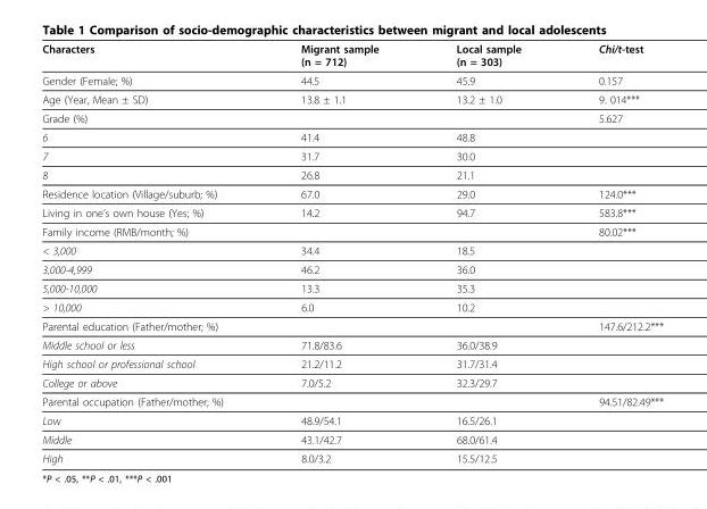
<table><thead><tr><td>Characters</td><td>Migrant sample (n = 712)</td><td>Local sample (n = 303)</td><td>Chi/t-test</td></tr></thead><tbody><tr><td>Gender (Female; %)</td><td>44.5</td><td>45.9</td><td>0.157</td></tr><tr><td>Age (Year, Mean ± SD)</td><td>13.8 ± 1.1</td><td>13.2 ± 1.0</td><td>9. 014***</td></tr><tr><td>Grade (%)</td><td></td><td></td><td>5.627</td></tr><tr><td>6</td><td>41.4</td><td>48.8</td><td></td></tr><tr><td>7</td><td>31.7</td><td>30.0</td><td></td></tr><tr><td>8</td><td>26.8</td><td>21.1</td><td></td></tr><tr><td>Residence location (Village/suburb; %)</td><td>67.0</td><td>29.0</td><td>124.0***</td></tr><tr><td>Living in one’s own house (Yes; %)</td><td>14.2</td><td>94.7</td><td>583.8***</td></tr><tr><td>Family income (RMB/month; %)</td><td></td><td></td><td>80.02***</td></tr><tr><td>&lt; 3,000</td><td>34.4</td><td>18.5</td><td></td></tr><tr><td>3,000-4,999</td><td>46.2</td><td>36.0</td><td></td></tr><tr><td>5,000-10,000</td><td>13.3</td><td>35.3</td><td></td></tr><tr><td>&gt; 10,000</td><td>6.0</td><td>10.2</td><td></td></tr><tr><td>Parental education (Father/mother; %)</td><td></td><td></td><td>147.6/212.2***</td></tr><tr><td>Middle school or less</td><td>71.8/83.6</td><td>36.0/38.9</td><td></td></tr><tr><td>High school or professional school</td><td>21.2/11.2</td><td>31.7/31.4</td><td></td></tr><tr><td>College or above</td><td>7.0/5.2</td><td>32.3/29.7</td><td></td></tr><tr><td>Parental occupation (Father/mother; %)</td><td></td><td></td><td>94.51/82.49***</td></tr><tr><td>Low</td><td>48.9/54.1</td><td>16.5/26.1</td><td></td></tr><tr><td>Middle</td><td>43.1/42.7</td><td>68.0/61.4</td><td></td></tr><tr><td>High</td><td>8.0/3.2</td><td>15.5/12.5</td><td></td></tr></tbody></table>